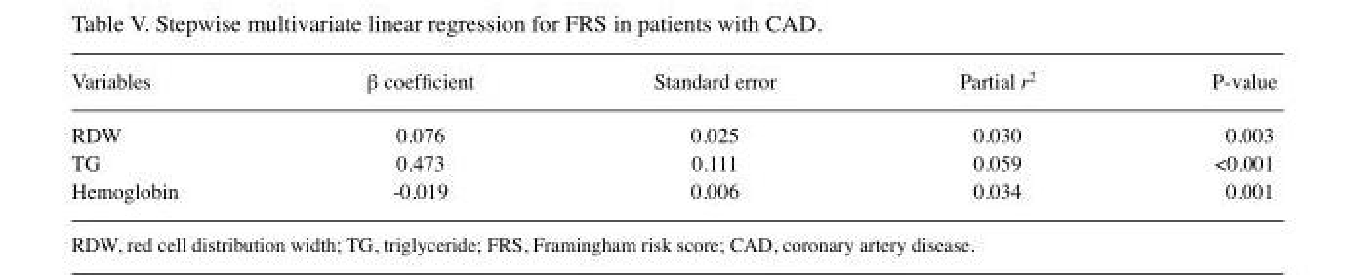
<table><thead><tr><td>Variables</td><td>β coefficient</td><td>Standard error</td><td>Partial r<sup>2</sup></td><td>P-value</td></tr></thead><tbody><tr><td>RDW</td><td>0.076</td><td>0.025</td><td>0.030</td><td>0.003</td></tr><tr><td>TG</td><td>0.473</td><td>0.111</td><td>0.059</td><td>&lt;0.001</td></tr><tr><td>Hemoglobin</td><td>-0.019</td><td>0.006</td><td>0.034</td><td>0.001</td></tr></tbody></table>